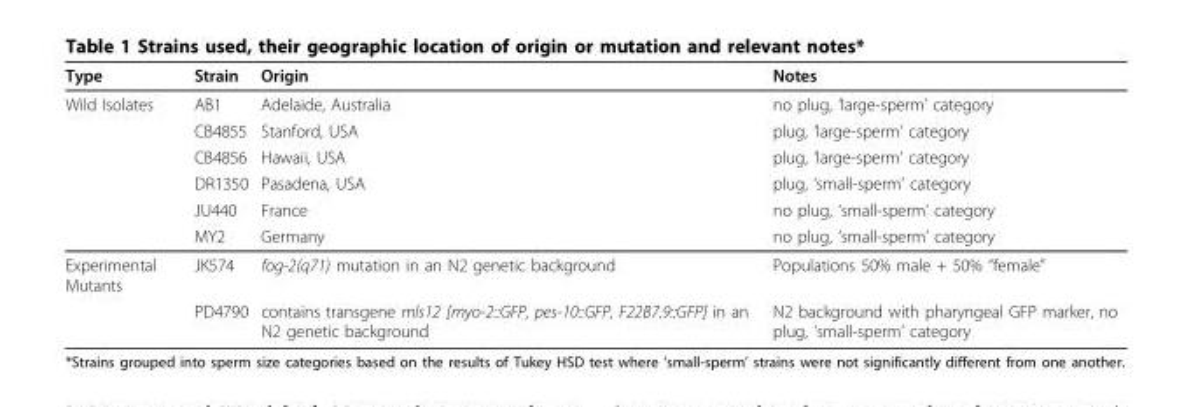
<table><thead><tr><td>Type</td><td>Strain</td><td>Origin</td><td>Notes</td></tr></thead><tbody><tr><td rowspan="6">Wild Isolates</td><td>AB1</td><td>Adelaide, Australia</td><td>no plug, ‘large-sperm’ category</td></tr><tr><td>CB4855</td><td>Stanford, USA</td><td>plug, ‘large-sperm’ category</td></tr><tr><td>CB4856</td><td>Hawaii, USA</td><td>plug, ‘large-sperm’ category</td></tr><tr><td>DR1350</td><td>Pasadena, USA</td><td>plug, ‘small-sperm’ category</td></tr><tr><td>JU440</td><td>France</td><td>no plug, ‘small-sperm’ category</td></tr><tr><td>MY2</td><td>Germany</td><td>no plug, ‘small-sperm’ category</td></tr><tr><td rowspan="2">Experimental Mutants</td><td>JK574</td><td>fog-2(q71) mutation in an N2 genetic background</td><td>Populations 50% male + 50% “female”</td></tr><tr><td>PD4790</td><td>contains transgene mls12 [myo-2::GFP, pes-10::GFP, F22B7.9::GFP] in an N2 genetic background</td><td>N2 background with pharyngeal GFP marker, no plug, ‘small-sperm’ category</td></tr></tbody></table>